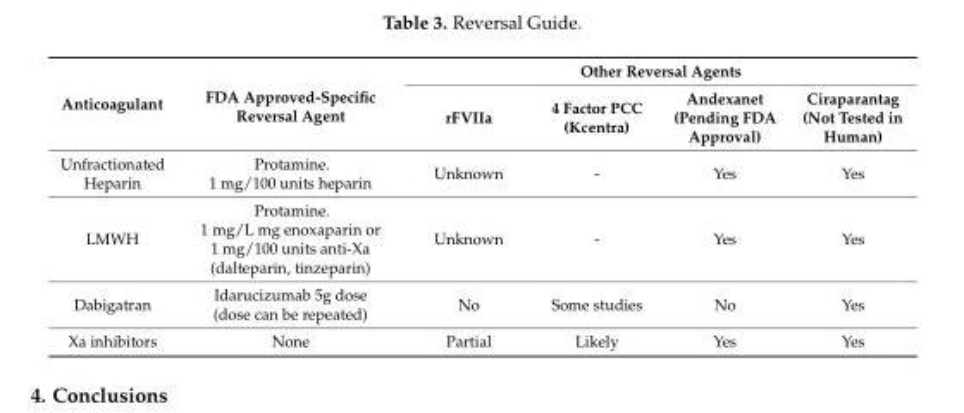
<table><thead><tr><td rowspan="2">Anticoagulant</td><td rowspan="2">FDA Approved-Specific Reversal Agent</td><td colspan="4">Other Reversal Agents</td></tr><tr><td>rFVIIa</td><td>4 Factor PCC (Kcentra)</td><td>Andexanet (Pending FDA Approval)</td><td>Ciraparantag (Not Tested in Human)</td></tr></thead><tbody><tr><td>Unfractionated Heparin</td><td>Protamine. 1 mg/100 units heparin</td><td>Unknown</td><td>-</td><td>Yes</td><td>Yes</td></tr><tr><td>LMWH</td><td>Protamine. 1 mg/L mg enoxaparin or 1 mg/100 units anti-Xa (dalteparin, tinzeparin)</td><td>Unknown</td><td>-</td><td>Yes</td><td>Yes</td></tr><tr><td>Dabigatran</td><td>Idarucizumab 5g dose (dose can be repeated)</td><td>No</td><td>Some studies</td><td>No</td><td>Yes</td></tr><tr><td>Xa inhibitors</td><td>None</td><td>Partial</td><td>Likely</td><td>Yes</td><td>Yes</td></tr></tbody></table>